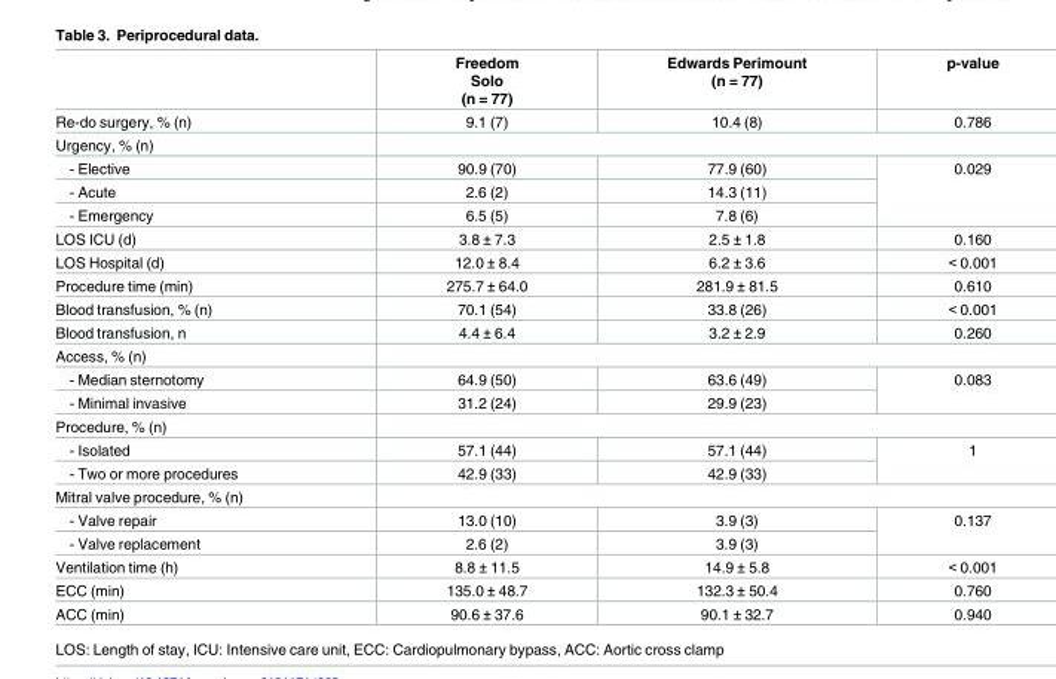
<table><thead><tr><td></td><td>Freedom Solo (n = 77)</td><td>Edwards Perimount (n = 77)</td><td>p-value</td></tr></thead><tbody><tr><td>Re-do surgery, % (n)</td><td>9.1 (7)</td><td>10.4 (8)</td><td>0.786</td></tr><tr><td colspan="4">Urgency, % (n)</td></tr><tr><td>- Elective</td><td>90.9 (70)</td><td>77.9 (60)</td><td rowspan="3">0.029</td></tr><tr><td>- Acute</td><td>2.6 (2)</td><td>14.3 (11)</td></tr><tr><td>- Emergency</td><td>6.5 (5)</td><td>7.8 (6)</td></tr><tr><td>LOS ICU (d)</td><td>3.8 ± 7.3</td><td>2.5 ± 1.8</td><td>0.160</td></tr><tr><td>LOS Hospital (d)</td><td>12.0 ± 8.4</td><td>6.2 ± 3.6</td><td>&lt; 0.001</td></tr><tr><td>Procedure time (min)</td><td>275.7 ± 64.0</td><td>281.9 ± 81.5</td><td>0.610</td></tr><tr><td>Blood transfusion, % (n)</td><td>70.1 (54)</td><td>33.8 (26)</td><td>&lt; 0.001</td></tr><tr><td>Blood transfusion, n</td><td>4.4 ± 6.4</td><td>3.2 ± 2.9</td><td>0.260</td></tr><tr><td colspan="4">Access, % (n)</td></tr><tr><td>- Median sternotomy</td><td>64.9 (50)</td><td>63.6 (49)</td><td rowspan="2">0.083</td></tr><tr><td>- Minimal invasive</td><td>31.2 (24)</td><td>29.9 (23)</td></tr><tr><td colspan="4">Procedure, % (n)</td></tr><tr><td>- Isolated</td><td>57.1 (44)</td><td>57.1 (44)</td><td rowspan="2">1</td></tr><tr><td>- Two or more procedures</td><td>42.9 (33)</td><td>42.9 (33)</td></tr><tr><td colspan="4">Mitral valve procedure, % (n)</td></tr><tr><td>- Valve repair</td><td>13.0 (10)</td><td>3.9 (3)</td><td rowspan="2">0.137</td></tr><tr><td>- Valve replacement</td><td>2.6 (2)</td><td>3.9 (3)</td></tr><tr><td>Ventilation time (h)</td><td>8.8 ± 11.5</td><td>14.9 ± 5.8</td><td>&lt; 0.001</td></tr><tr><td>ECC (min)</td><td>135.0 ± 48.7</td><td>132.3 ± 50.4</td><td>0.760</td></tr><tr><td>ACC (min)</td><td>90.6 ± 37.6</td><td>90.1 ± 32.7</td><td>0.940</td></tr></tbody></table>